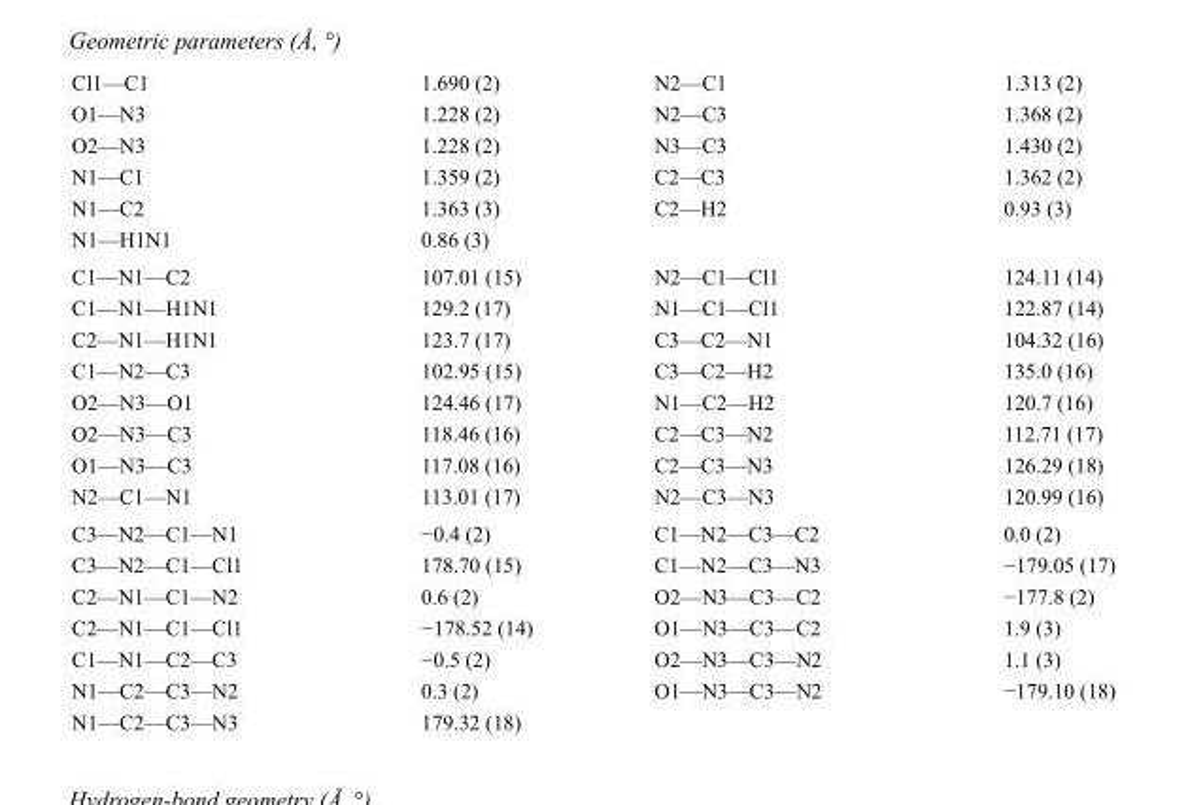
<table><tbody><tr><td>Cl1—C1</td><td>1.690 (2)</td><td>N2—C1</td><td>1.313 (2)</td></tr><tr><td>O1—N3</td><td>1.228 (2)</td><td>N2—C3</td><td>1.368 (2)</td></tr><tr><td>O2—N3</td><td>1.228 (2)</td><td>N3—C3</td><td>1.430 (2)</td></tr><tr><td>N1—C1</td><td>1.359 (2)</td><td>C2—C3</td><td>1.362 (2)</td></tr><tr><td>N1—C2</td><td>1.363 (3)</td><td>C2—H2</td><td>0.93 (3)</td></tr><tr><td>N1—H1N1</td><td>0.86 (3)</td><td></td><td></td></tr><tr><td>C1—N1—C2</td><td>107.01 (15)</td><td>N2—C1—Cl1</td><td>124.11 (14)</td></tr><tr><td>C1—N1—H1N1</td><td>129.2 (17)</td><td>N1—C1—Cl1</td><td>122.87 (14)</td></tr><tr><td>C2—N1—H1N1</td><td>123.7 (17)</td><td>C3—C2—N1</td><td>104.32 (16)</td></tr><tr><td>C1—N2—C3</td><td>102.95 (15)</td><td>C3—C2—H2</td><td>135.0 (16)</td></tr><tr><td>O2—N3—O1</td><td>124.46 (17)</td><td>N1—C2—H2</td><td>120.7 (16)</td></tr><tr><td>O2—N3—C3</td><td>118.46 (16)</td><td>C2—C3—N2</td><td>112.71 (17)</td></tr><tr><td>O1—N3—C3</td><td>117.08 (16)</td><td>C2—C3—N3</td><td>126.29 (18)</td></tr><tr><td>N2—C1—N1</td><td>113.01 (17)</td><td>N2—C3—N3</td><td>120.99 (16)</td></tr><tr><td>C3—N2—C1—N1</td><td>−0.4 (2)</td><td>C1—N2—C3—C2</td><td>0.0 (2)</td></tr><tr><td>C3—N2—C1—Cl1</td><td>178.70 (15)</td><td>C1—N2—C3—N3</td><td>−179.05 (17)</td></tr><tr><td>C2—N1—C1—N2</td><td>0.6 (2)</td><td>O2—N3—C3—C2</td><td>−177.8 (2)</td></tr><tr><td>C2—N1—C1—Cl1</td><td>−178.52 (14)</td><td>O1—N3—C3—C2</td><td>1.9 (3)</td></tr><tr><td>C1—N1—C2—C3</td><td>−0.5 (2)</td><td>O2—N3—C3—N2</td><td>1.1 (3)</td></tr><tr><td>N1—C2—C3—N2</td><td>0.3 (2)</td><td>O1—N3—C3—N2</td><td>−179.10 (18)</td></tr><tr><td>N1—C2—C3—N3</td><td>179.32 (18)</td><td></td><td></td></tr></tbody></table>